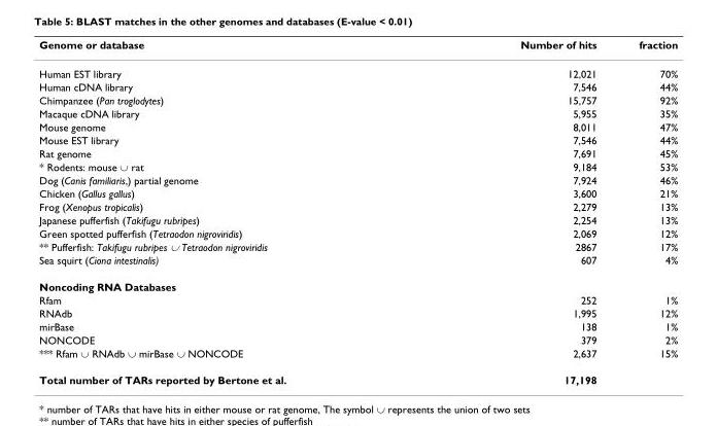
<table><thead><tr><td>Genome or database</td><td>Number of hits</td><td>fraction</td></tr></thead><tbody><tr><td>Human EST library</td><td>12,021</td><td>70%</td></tr><tr><td>Human cDNA library</td><td>7,546</td><td>44%</td></tr><tr><td>Chimpanzee (Pan troglodytes)</td><td>15,757</td><td>92%</td></tr><tr><td>Macaque cDNA library</td><td>5,955</td><td>35%</td></tr><tr><td>Mouse genome</td><td>8,011</td><td>47%</td></tr><tr><td>Mouse EST library</td><td>7,546</td><td>44%</td></tr><tr><td>Rat genome</td><td>7,691</td><td>45%</td></tr><tr><td>* Rodents: mouse ∪ rat</td><td>9,184</td><td>53%</td></tr><tr><td>Dog (Canis familiaris,) partial genome</td><td>7,924</td><td>46%</td></tr><tr><td>Chicken (Gallus gallus)</td><td>3,600</td><td>21%</td></tr><tr><td>Frog (Xenopus tropicalis)</td><td>2,279</td><td>13%</td></tr><tr><td>Japanese pufferfish (Takifugu rubripes)</td><td>2,254</td><td>13%</td></tr><tr><td>Green spotted pufferfish (Tetraodon nigroviridis)</td><td>2,069</td><td>12%</td></tr><tr><td>** Pufferfish: Takifugu rubripes ∪ Tetraodon nigroviridis</td><td>2867</td><td>17%</td></tr><tr><td>Sea squirt (Ciona intestinalis)</td><td>607</td><td>4%</td></tr><tr><td colspan="3">Noncoding RNA Databases</td></tr><tr><td>Rfam</td><td>252</td><td>1%</td></tr><tr><td>RNAdb</td><td>1,995</td><td>12%</td></tr><tr><td>mirBase</td><td>138</td><td>1%</td></tr><tr><td>NONCODE</td><td>379</td><td>2%</td></tr><tr><td>*** Rfam ∪ RNAdb ∪ mirBase ∪ NONCODE</td><td>2,637</td><td>15%</td></tr><tr><td>Total number of TARs reported by Bertone et al.</td><td>17,198</td><td></td></tr></tbody></table>